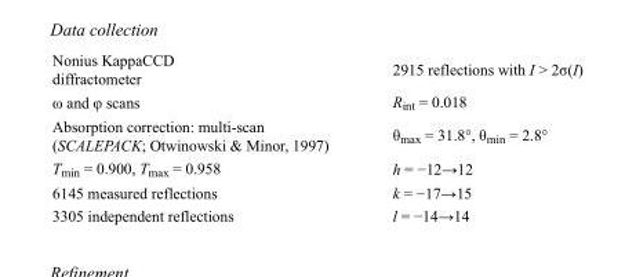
<table><tbody><tr><td>Nonius KappaCCD diffractometer</td><td>2915 reflections with I &gt; 2σ(I)</td></tr><tr><td>ω and φ scans</td><td>R<sub>int</sub> = 0.018</td></tr><tr><td>Absorption correction: multi-scan (SCALEPACK; Otwinowski &amp; Minor, 1997)</td><td>θ<sub>max</sub> = 31.8°, θ<sub>min</sub> = 2.8°</td></tr><tr><td>T<sub>min</sub> = 0.900, T<sub>max</sub> = 0.958</td><td>h = −12→12</td></tr><tr><td>6145 measured reflections</td><td>k = −17→15</td></tr><tr><td>3305 independent reflections</td><td>l = −14→14</td></tr></tbody></table>